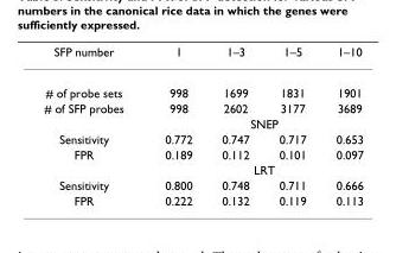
<table><thead><tr><td>SFP number</td><td>1</td><td>1–3</td><td>1–5</td><td>1–10</td></tr></thead><tbody><tr><td># of probe sets</td><td>998</td><td>1699</td><td>1831</td><td>1901</td></tr><tr><td rowspan="2"># of SFP probes</td><td>998</td><td>2602</td><td>3177</td><td>3689</td></tr><tr><td colspan="4">SNEP</td></tr><tr><td>Sensitivity</td><td>0.772</td><td>0.747</td><td>0.717</td><td>0.653</td></tr><tr><td rowspan="2">FPR</td><td>0.189</td><td>0.112</td><td>0.101</td><td>0.097</td></tr><tr><td colspan="4">LRT</td></tr><tr><td>Sensitivity</td><td>0.800</td><td>0.748</td><td>0.711</td><td>0.666</td></tr><tr><td>FPR</td><td>0.222</td><td>0.132</td><td>0.119</td><td>0.113</td></tr></tbody></table>